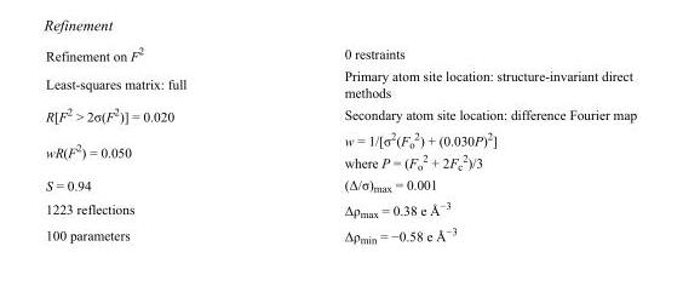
<table><tbody><tr><td>Refinement on F<sup>2</sup></td><td>0 restraints</td></tr><tr><td>Least-squares matrix: full</td><td>Primary atom site location: structure-invariant direct methods</td></tr><tr><td>R[F<sup>2</sup> &gt; 2σ(F<sup>2</sup>)] = 0.020</td><td>Secondary atom site location: difference Fourier map</td></tr><tr><td>wR(F<sup>2</sup>) = 0.050</td><td>w = 1/[σ<sup>2</sup>(F<sub>o</sub> <sup>2</sup>) + (0.030P)<sup>2</sup>] where P = (F<sub>o</sub> <sup>2</sup> + 2F<sub>c</sub> <sup>2</sup>)/3</td></tr><tr><td>S = 0.94</td><td>(Δ/σ)<sub>max</sub> = 0.001</td></tr><tr><td>1223 reflections</td><td>Δρ<sub>max</sub> = 0.38 e Å<sup>−3</sup></td></tr><tr><td>100 parameters</td><td>Δρ<sub>min</sub> = −0.58 e Å<sup>−3</sup></td></tr></tbody></table>